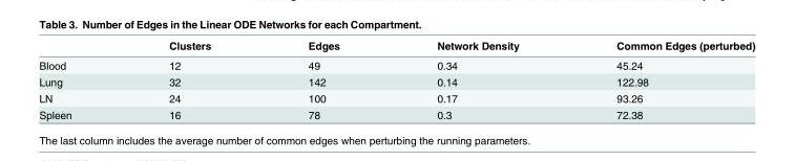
<table><thead><tr><td></td><td>Clusters</td><td>Edges</td><td>Network Density</td><td>Common Edges (perturbed)</td></tr></thead><tbody><tr><td>Blood</td><td>12</td><td>49</td><td>0.34</td><td>45.24</td></tr><tr><td>Lung</td><td>32</td><td>142</td><td>0.14</td><td>122.98</td></tr><tr><td>LN</td><td>24</td><td>100</td><td>0.17</td><td>93.26</td></tr><tr><td>Spleen</td><td>16</td><td>78</td><td>0.3</td><td>72.38</td></tr></tbody></table>